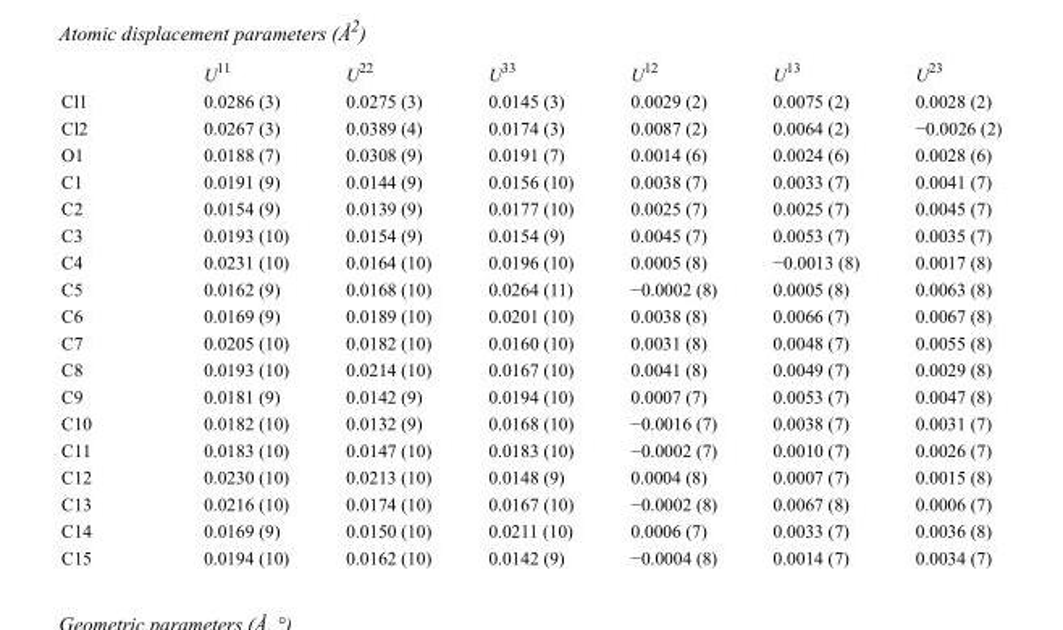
<table><thead><tr><td></td><td>U<sup>11</sup></td><td>U<sup>22</sup></td><td>U<sup>33</sup></td><td>U<sup>12</sup></td><td>U<sup>13</sup></td><td>U<sup>23</sup></td></tr></thead><tbody><tr><td>Cl1</td><td>0.0286 (3)</td><td>0.0275 (3)</td><td>0.0145 (3)</td><td>0.0029 (2)</td><td>0.0075 (2)</td><td>0.0028 (2)</td></tr><tr><td>Cl2</td><td>0.0267 (3)</td><td>0.0389 (4)</td><td>0.0174 (3)</td><td>0.0087 (2)</td><td>0.0064 (2)</td><td>−0.0026 (2)</td></tr><tr><td>O1</td><td>0.0188 (7)</td><td>0.0308 (9)</td><td>0.0191 (7)</td><td>0.0014 (6)</td><td>0.0024 (6)</td><td>0.0028 (6)</td></tr><tr><td>C1</td><td>0.0191 (9)</td><td>0.0144 (9)</td><td>0.0156 (10)</td><td>0.0038 (7)</td><td>0.0033 (7)</td><td>0.0041 (7)</td></tr><tr><td>C2</td><td>0.0154 (9)</td><td>0.0139 (9)</td><td>0.0177 (10)</td><td>0.0025 (7)</td><td>0.0025 (7)</td><td>0.0045 (7)</td></tr><tr><td>C3</td><td>0.0193 (10)</td><td>0.0154 (9)</td><td>0.0154 (9)</td><td>0.0045 (7)</td><td>0.0053 (7)</td><td>0.0035 (7)</td></tr><tr><td>C4</td><td>0.0231 (10)</td><td>0.0164 (10)</td><td>0.0196 (10)</td><td>0.0005 (8)</td><td>−0.0013 (8)</td><td>0.0017 (8)</td></tr><tr><td>C5</td><td>0.0162 (9)</td><td>0.0168 (10)</td><td>0.0264 (11)</td><td>−0.0002 (8)</td><td>0.0005 (8)</td><td>0.0063 (8)</td></tr><tr><td>C6</td><td>0.0169 (9)</td><td>0.0189 (10)</td><td>0.0201 (10)</td><td>0.0038 (8)</td><td>0.0066 (7)</td><td>0.0067 (8)</td></tr><tr><td>C7</td><td>0.0205 (10)</td><td>0.0182 (10)</td><td>0.0160 (10)</td><td>0.0031 (8)</td><td>0.0048 (7)</td><td>0.0055 (8)</td></tr><tr><td>C8</td><td>0.0193 (10)</td><td>0.0214 (10)</td><td>0.0167 (10)</td><td>0.0041 (8)</td><td>0.0049 (7)</td><td>0.0029 (8)</td></tr><tr><td>C9</td><td>0.0181 (9)</td><td>0.0142 (9)</td><td>0.0194 (10)</td><td>0.0007 (7)</td><td>0.0053 (7)</td><td>0.0047 (8)</td></tr><tr><td>C10</td><td>0.0182 (10)</td><td>0.0132 (9)</td><td>0.0168 (10)</td><td>−0.0016 (7)</td><td>0.0038 (7)</td><td>0.0031 (7)</td></tr><tr><td>C11</td><td>0.0183 (10)</td><td>0.0147 (10)</td><td>0.0183 (10)</td><td>−0.0002 (7)</td><td>0.0010 (7)</td><td>0.0026 (7)</td></tr><tr><td>C12</td><td>0.0230 (10)</td><td>0.0213 (10)</td><td>0.0148 (9)</td><td>0.0004 (8)</td><td>0.0007 (7)</td><td>0.0015 (8)</td></tr><tr><td>C13</td><td>0.0216 (10)</td><td>0.0174 (10)</td><td>0.0167 (10)</td><td>−0.0002 (8)</td><td>0.0067 (8)</td><td>0.0006 (7)</td></tr><tr><td>C14</td><td>0.0169 (9)</td><td>0.0150 (10)</td><td>0.0211 (10)</td><td>0.0006 (7)</td><td>0.0033 (7)</td><td>0.0036 (8)</td></tr><tr><td>C15</td><td>0.0194 (10)</td><td>0.0162 (10)</td><td>0.0142 (9)</td><td>−0.0004 (8)</td><td>0.0014 (7)</td><td>0.0034 (7)</td></tr></tbody></table>